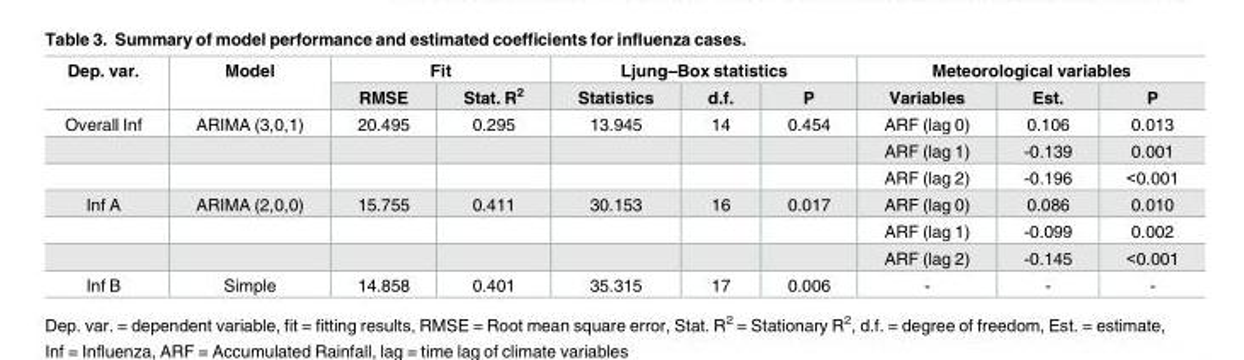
<table><thead><tr><td rowspan="2">Dep. var.</td><td rowspan="2">Model</td><td colspan="2">Fit</td><td colspan="3">Ljung–Box statistics</td><td colspan="3">Meteorological variables</td></tr><tr><td>RMSE</td><td>Stat. R<sup>2</sup></td><td>Statistics</td><td>d.f.</td><td>P</td><td>Variables</td><td>Est.</td><td>P</td></tr></thead><tbody><tr><td rowspan="3">Overall Inf</td><td>ARIMA (3,0,1)</td><td>20.495</td><td>0.295</td><td>13.945</td><td>14</td><td>0.454</td><td>ARF (lag 0)</td><td>0.106</td><td>0.013</td></tr><tr><td></td><td></td><td></td><td></td><td></td><td></td><td>ARF (lag 1)</td><td>-0.139</td><td>0.001</td></tr><tr><td></td><td></td><td></td><td></td><td></td><td></td><td>ARF (lag 2)</td><td>-0.196</td><td>&lt;0.001</td></tr><tr><td rowspan="3">Inf A</td><td>ARIMA (2,0,0)</td><td>15.755</td><td>0.411</td><td>30.153</td><td>16</td><td>0.017</td><td>ARF (lag 0)</td><td>0.086</td><td>0.010</td></tr><tr><td></td><td></td><td></td><td></td><td></td><td></td><td>ARF (lag 1)</td><td>-0.099</td><td>0.002</td></tr><tr><td></td><td></td><td></td><td></td><td></td><td></td><td>ARF (lag 2)</td><td>-0.145</td><td>&lt;0.001</td></tr><tr><td>Inf B</td><td>Simple</td><td>14.858</td><td>0.401</td><td>35.315</td><td>17</td><td>0.006</td><td>-</td><td>-</td><td>-</td></tr></tbody></table>